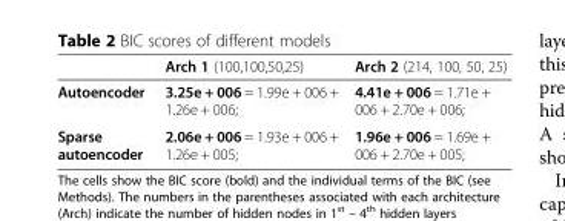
<table><thead><tr><td></td><td>Arch 1 (100,100,50,25)</td><td>Arch 2 (214, 100, 50, 25)</td></tr></thead><tbody><tr><td>Autoencoder</td><td>3.25e + 006 = 1.99e + 006 + 1.26e + 006;</td><td>4.41e + 006 = 1.71e + 006 + 2.70e + 006;</td></tr><tr><td>Sparse autoencoder</td><td>2.06e + 006 = 1.93e + 006 + 1.26e + 005;</td><td>1.96e + 006 = 1.69e + 006 + 2.70e + 005;</td></tr></tbody></table>